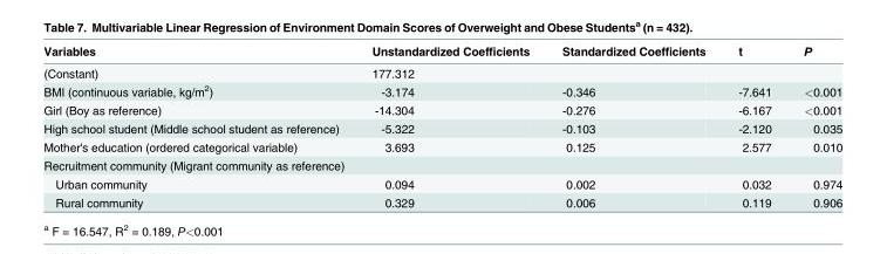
<table><thead><tr><td>Variables</td><td>Unstandardized Coefficients</td><td>Standardized Coefficients</td><td>t</td><td>P</td></tr></thead><tbody><tr><td>(Constant)</td><td>177.312</td><td></td><td></td><td></td></tr><tr><td>BMI (continuous variable, kg/m<sup>2</sup>)</td><td>-3.174</td><td>-0.346</td><td>-7.641</td><td>&lt;0.001</td></tr><tr><td>Girl (Boy as reference)</td><td>-14.304</td><td>-0.276</td><td>-6.167</td><td>&lt;0.001</td></tr><tr><td>High school student (Middle school student as reference)</td><td>-5.322</td><td>-0.103</td><td>-2.120</td><td>0.035</td></tr><tr><td>Mother&#x27;s education (ordered categorical variable)</td><td>3.693</td><td>0.125</td><td>2.577</td><td>0.010</td></tr><tr><td colspan="5">Recruitment community (Migrant community as reference)</td></tr><tr><td>Urban community</td><td>0.094</td><td>0.002</td><td>0.032</td><td>0.974</td></tr><tr><td>Rural community</td><td>0.329</td><td>0.006</td><td>0.119</td><td>0.906</td></tr></tbody></table>